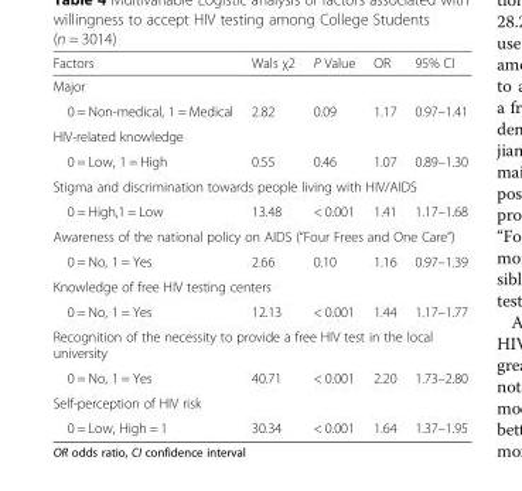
<table><thead><tr><td>Factors</td><td>Wals χ2</td><td>P Value</td><td>OR</td><td>95% CI</td></tr></thead><tbody><tr><td colspan="5">Major</td></tr><tr><td>0 = Non-medical, 1 = Medical</td><td>2.82</td><td>0.09</td><td>1.17</td><td>0.97–1.41</td></tr><tr><td colspan="5">HIV-related knowledge</td></tr><tr><td>0 = Low, 1 = High</td><td>0.55</td><td>0.46</td><td>1.07</td><td>0.89–1.30</td></tr><tr><td colspan="5">Stigma and discrimination towards people living with HIV/AIDS</td></tr><tr><td>0 = High,1 = Low</td><td>13.48</td><td>&lt; 0.001</td><td>1.41</td><td>1.17–1.68</td></tr><tr><td colspan="5">Awareness of the national policy on AIDS (“Four Frees and One Care”)</td></tr><tr><td>0 = No, 1 = Yes</td><td>2.66</td><td>0.10</td><td>1.16</td><td>0.97–1.39</td></tr><tr><td colspan="5">Knowledge of free HIV testing centers</td></tr><tr><td>0 = No, 1 = Yes</td><td>12.13</td><td>&lt; 0.001</td><td>1.44</td><td>1.17–1.77</td></tr><tr><td colspan="5">Recognition of the necessity to provide a free HIV test in the local university</td></tr><tr><td>0 = No, 1 = Yes</td><td>40.71</td><td>&lt; 0.001</td><td>2.20</td><td>1.73–2.80</td></tr><tr><td colspan="5">Self-perception of HIV risk</td></tr><tr><td>0 = Low, High = 1</td><td>30.34</td><td>&lt; 0.001</td><td>1.64</td><td>1.37–1.95</td></tr></tbody></table>